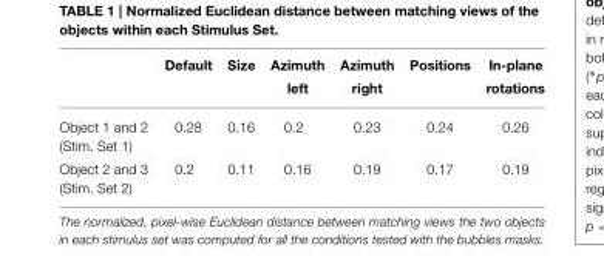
<table><thead><tr><td></td><td>Default</td><td>Size</td><td>Azimuth left</td><td>Azimuth right</td><td>Positions</td><td>In-plane rotations</td></tr></thead><tbody><tr><td>Object 1 and 2 (Stim. Set 1)</td><td>0.28</td><td>0.16</td><td>0.2</td><td>0.23</td><td>0.24</td><td>0.26</td></tr><tr><td>Object 2 and 3 (Stim. Set 2)</td><td>0.2</td><td>0.11</td><td>0.16</td><td>0.19</td><td>0.17</td><td>0.19</td></tr></tbody></table>